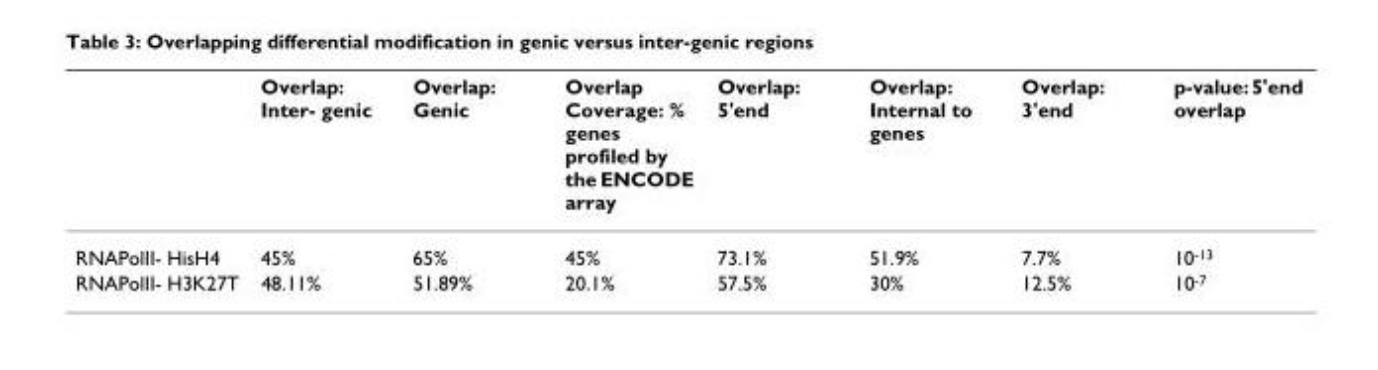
<table><thead><tr><td></td><td>Overlap: Inter- genic</td><td>Overlap: Genic</td><td>Overlap Coverage: % genes profiled by the ENCODE array</td><td>Overlap: 5&#x27;end</td><td>Overlap: Internal to genes</td><td>Overlap: 3&#x27;end</td><td>p-value: 5&#x27;end overlap</td></tr></thead><tbody><tr><td>RNAPolII- HisH4</td><td>45%</td><td>65%</td><td>45%</td><td>73.1%</td><td>51.9%</td><td>7.7%</td><td>10<sup>-13</sup></td></tr><tr><td>RNAPolII- H3K27T</td><td>48.11%</td><td>51.89%</td><td>20.1%</td><td>57.5%</td><td>30%</td><td>12.5%</td><td>10<sup>-7</sup></td></tr></tbody></table>